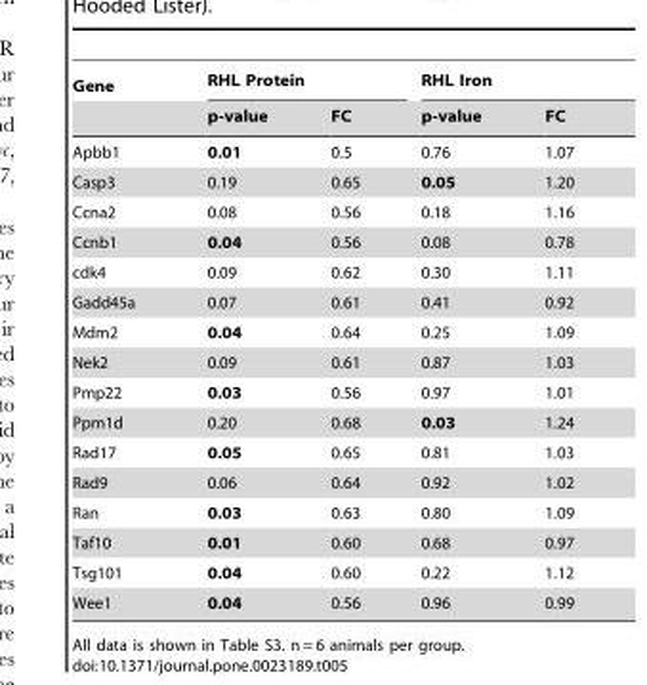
<table><thead><tr><td rowspan="2">Gene</td><td colspan="2">RHL Protein</td><td colspan="2">RHL Iron</td></tr><tr><td>p-value</td><td>FC</td><td>p-value</td><td>FC</td></tr></thead><tbody><tr><td>Apbb1</td><td>0.01</td><td>0.5</td><td>0.76</td><td>1.07</td></tr><tr><td>Casp3</td><td>0.19</td><td>0.65</td><td>0.05</td><td>1.20</td></tr><tr><td>Ccna2</td><td>0.08</td><td>0.56</td><td>0.18</td><td>1.16</td></tr><tr><td>Ccnb1</td><td>0.04</td><td>0.56</td><td>0.08</td><td>0.78</td></tr><tr><td>cdk4</td><td>0.09</td><td>0.62</td><td>0.30</td><td>1.11</td></tr><tr><td>Gadd45a</td><td>0.07</td><td>0.61</td><td>0.41</td><td>0.92</td></tr><tr><td>Mdm2</td><td>0.04</td><td>0.64</td><td>0.25</td><td>1.09</td></tr><tr><td>Nek2</td><td>0.09</td><td>0.61</td><td>0.87</td><td>1.03</td></tr><tr><td>Pmp22</td><td>0.03</td><td>0.56</td><td>0.97</td><td>1.01</td></tr><tr><td>Ppm1d</td><td>0.20</td><td>0.68</td><td>0.03</td><td>1.24</td></tr><tr><td>Rad17</td><td>0.05</td><td>0.65</td><td>0.81</td><td>1.03</td></tr><tr><td>Rad9</td><td>0.06</td><td>0.64</td><td>0.92</td><td>1.02</td></tr><tr><td>Ran</td><td>0.03</td><td>0.63</td><td>0.80</td><td>1.09</td></tr><tr><td>Taf10</td><td>0.01</td><td>0.60</td><td>0.68</td><td>0.97</td></tr><tr><td>Tsg101</td><td>0.04</td><td>0.60</td><td>0.22</td><td>1.12</td></tr><tr><td>Wee1</td><td>0.04</td><td>0.56</td><td>0.96</td><td>0.99</td></tr></tbody></table>